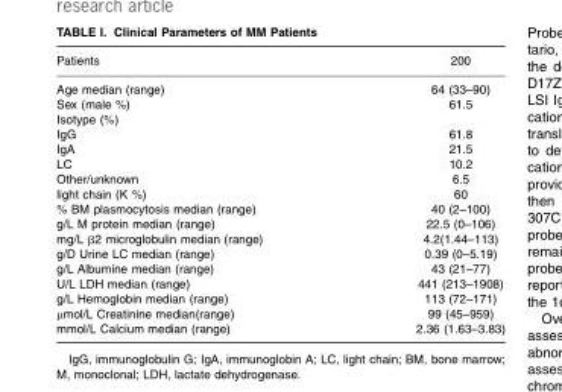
<table><thead><tr><td>Patients</td><td>200</td></tr></thead><tbody><tr><td>Age median (range)</td><td>64 (33–90)</td></tr><tr><td>Sex (male %)</td><td>61.5</td></tr><tr><td colspan="2">Isotype (%)</td></tr><tr><td>IgG</td><td>61.8</td></tr><tr><td>IgA</td><td>21.5</td></tr><tr><td>LC</td><td>10.2</td></tr><tr><td>Other/unknown</td><td>6.5</td></tr><tr><td>light chain (K %)</td><td>60</td></tr><tr><td>% BM plasmocytosis median (range)</td><td>40 (2–100)</td></tr><tr><td>g/L M protein median (range)</td><td>22.5 (0–106)</td></tr><tr><td>mg/L β2 microglobulin median (range)</td><td>4.2(1.44–113)</td></tr><tr><td>g/D Urine LC median (range)</td><td>0.39 (0–5.19)</td></tr><tr><td>g/L Albumine median (range)</td><td>43 (21–77)</td></tr><tr><td>U/L LDH median (range)</td><td>441 (213–1908)</td></tr><tr><td>g/L Hemoglobin median (range)</td><td>113 (72–171)</td></tr><tr><td>μmol/L Creatinine median(range)</td><td>99 (45–959)</td></tr><tr><td>mmol/L Calcium median (range)</td><td>2.36 (1.63–3.83)</td></tr></tbody></table>